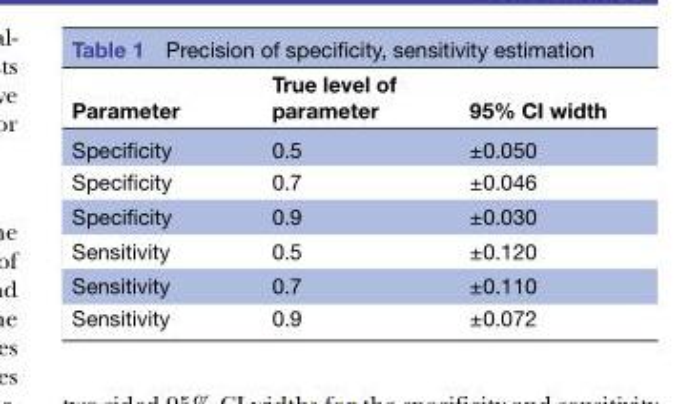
<table><thead><tr><td>Parameter</td><td>True level of parameter</td><td>95% CI width</td></tr></thead><tbody><tr><td>Specificity</td><td>0.5</td><td>±0.050</td></tr><tr><td>Specificity</td><td>0.7</td><td>±0.046</td></tr><tr><td>Specificity</td><td>0.9</td><td>±0.030</td></tr><tr><td>Sensitivity</td><td>0.5</td><td>±0.120</td></tr><tr><td>Sensitivity</td><td>0.7</td><td>±0.110</td></tr><tr><td>Sensitivity</td><td>0.9</td><td>±0.072</td></tr></tbody></table>